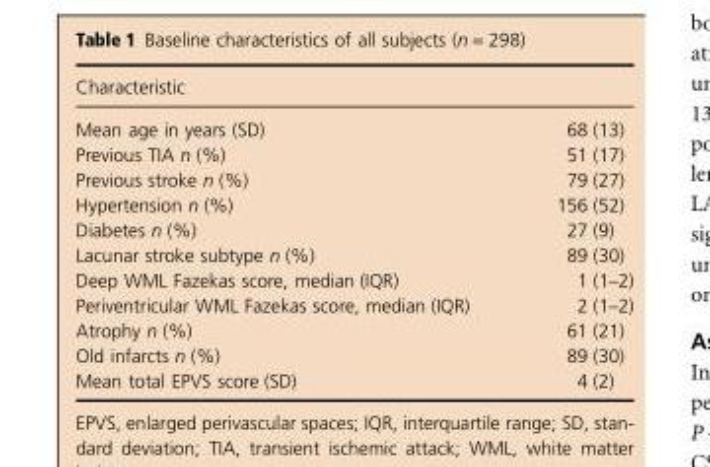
<table><thead><tr><td>Characteristic</td><td></td></tr></thead><tbody><tr><td>Mean age in years (SD)</td><td>68 (13)</td></tr><tr><td>Previous TIA n (%)</td><td>51 (17)</td></tr><tr><td>Previous stroke n (%)</td><td>79 (27)</td></tr><tr><td>Hypertension n (%)</td><td>156 (52)</td></tr><tr><td>Diabetes n (%)</td><td>27 (9)</td></tr><tr><td>Lacunar stroke subtype n (%)</td><td>89 (30)</td></tr><tr><td>Deep WML Fazekas score, median (IQR)</td><td>1 (1–2)</td></tr><tr><td>Periventricular WML Fazekas score, median (IQR)</td><td>2 (1–2)</td></tr><tr><td>Atrophy n (%)</td><td>61 (21)</td></tr><tr><td>Old infarcts n (%)</td><td>89 (30)</td></tr><tr><td>Mean total EPVS score (SD)</td><td>4 (2)</td></tr></tbody></table>